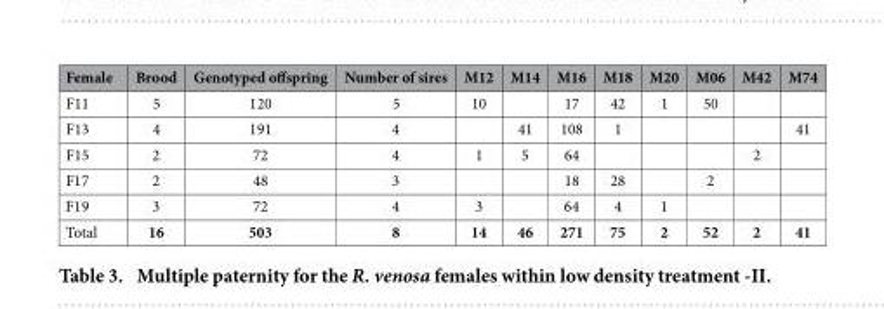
<table><thead><tr><td>Female</td><td>Brood</td><td>Genotyped offspring</td><td>Number of sires</td><td>M12</td><td>M14</td><td>M16</td><td>M18</td><td>M20</td><td>M06</td><td>M42</td><td>M74</td></tr></thead><tbody><tr><td>F11</td><td>5</td><td>120</td><td>5</td><td>10</td><td></td><td>17</td><td>42</td><td>1</td><td>50</td><td></td><td></td></tr><tr><td>F13</td><td>4</td><td>191</td><td>4</td><td></td><td>41</td><td>108</td><td>1</td><td></td><td></td><td></td><td>41</td></tr><tr><td>F15</td><td>2</td><td>72</td><td>4</td><td>1</td><td>5</td><td>64</td><td></td><td></td><td></td><td>2</td><td></td></tr><tr><td>F17</td><td>2</td><td>48</td><td>3</td><td></td><td></td><td>18</td><td>28</td><td></td><td>2</td><td></td><td></td></tr><tr><td>F19</td><td>3</td><td>72</td><td>4</td><td>3</td><td></td><td>64</td><td>4</td><td>1</td><td></td><td></td><td></td></tr><tr><td>Total</td><td>16</td><td>503</td><td>8</td><td>14</td><td>46</td><td>271</td><td>75</td><td>2</td><td>52</td><td>2</td><td>41</td></tr></tbody></table>